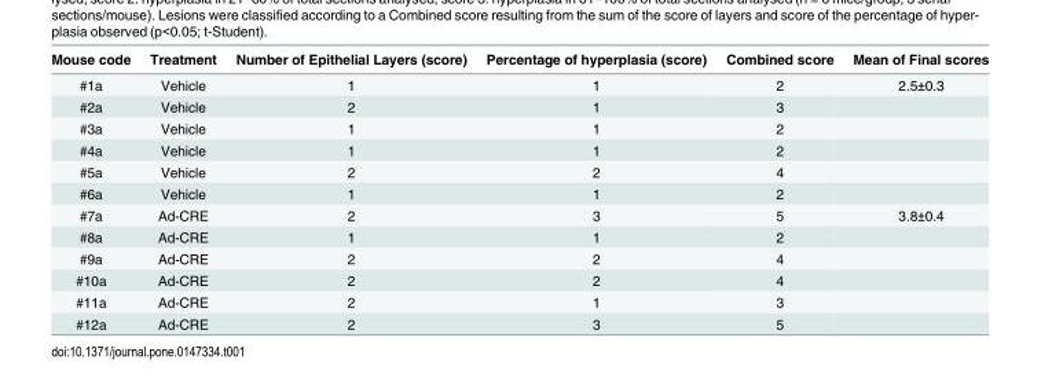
<table><thead><tr><td>Mouse code</td><td>Treatment</td><td>Number of Epithelial Layers (score)</td><td>Percentage of hyperplasia (score)</td><td>Combined score</td><td>Mean of Final scores</td></tr></thead><tbody><tr><td>#1a</td><td>Vehicle</td><td>1</td><td>1</td><td>2</td><td>2.5±0.3</td></tr><tr><td>#2a</td><td>Vehicle</td><td>2</td><td>1</td><td>3</td><td></td></tr><tr><td>#3a</td><td>Vehicle</td><td>1</td><td>1</td><td>2</td><td></td></tr><tr><td>#4a</td><td>Vehicle</td><td>1</td><td>1</td><td>2</td><td></td></tr><tr><td>#5a</td><td>Vehicle</td><td>2</td><td>2</td><td>4</td><td></td></tr><tr><td>#6a</td><td>Vehicle</td><td>1</td><td>1</td><td>2</td><td></td></tr><tr><td>#7a</td><td>Ad-CRE</td><td>2</td><td>3</td><td>5</td><td>3.8±0.4</td></tr><tr><td>#8a</td><td>Ad-CRE</td><td>1</td><td>1</td><td>2</td><td></td></tr><tr><td>#9a</td><td>Ad-CRE</td><td>2</td><td>2</td><td>4</td><td></td></tr><tr><td>#10a</td><td>Ad-CRE</td><td>2</td><td>2</td><td>4</td><td></td></tr><tr><td>#11a</td><td>Ad-CRE</td><td>2</td><td>1</td><td>3</td><td></td></tr><tr><td>#12a</td><td>Ad-CRE</td><td>2</td><td>3</td><td>5</td><td></td></tr></tbody></table>